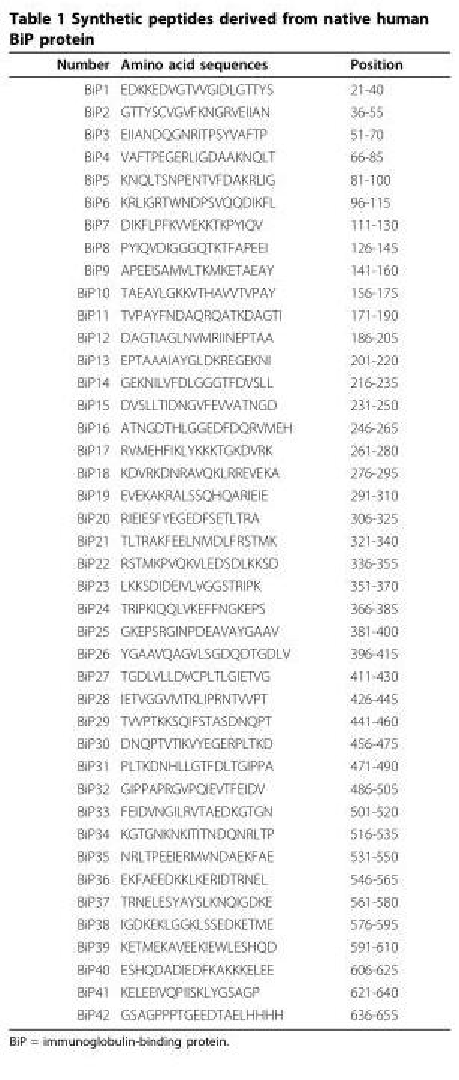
<table><thead><tr><td>Number</td><td>Amino acid sequences</td><td>Position</td></tr></thead><tbody><tr><td>BiP1</td><td>EDKKEDVGTVVGIDLGTTYS</td><td>21-40</td></tr><tr><td>BiP2</td><td>GTTYSCVGVFKNGRVEIIAN</td><td>36-55</td></tr><tr><td>BiP3</td><td>EIIANDQGNRITPSYVAFTP</td><td>51-70</td></tr><tr><td>BiP4</td><td>VAFTPEGERLIGDAAKNQLT</td><td>66-85</td></tr><tr><td>BiP5</td><td>KNQLTSNPENTVFDAKRLIG</td><td>81-100</td></tr><tr><td>BiP6</td><td>KRLIGRTWNDPSVQQDIKFL</td><td>96-115</td></tr><tr><td>BiP7</td><td>DIKFLPFKVVEKKTKPYIQV</td><td>111-130</td></tr><tr><td>BiP8</td><td>PYIQVDIGGGQTKTFAPEEI</td><td>126-145</td></tr><tr><td>BiP9</td><td>APEEISAMVLTKMKETAEAY</td><td>141-160</td></tr><tr><td>BiP10</td><td>TAEAYLGKKVTHAVVTVPAY</td><td>156-175</td></tr><tr><td>BiP11</td><td>TVPAYFNDAQRQATKDAGTI</td><td>171-190</td></tr><tr><td>BiP12</td><td>DAGTIAGLNVMRIINEPTAA</td><td>186-205</td></tr><tr><td>BiP13</td><td>EPTAAAIAYGLDKREGEKNI</td><td>201-220</td></tr><tr><td>BiP14</td><td>GEKNILVFDLGGGTFDVSLL</td><td>216-235</td></tr><tr><td>BiP15</td><td>DVSLLTIDNGVFEVVATNGD</td><td>231-250</td></tr><tr><td>BiP16</td><td>ATNGDTHLGGEDFDQRVMEH</td><td>246-265</td></tr><tr><td>BiP17</td><td>RVMEHFIKLYKKKTGKDVRK</td><td>261-280</td></tr><tr><td>BiP18</td><td>KDVRKDNRAVQKLRREVEKA</td><td>276-295</td></tr><tr><td>BiP19</td><td>EVEKAKRALSSQHQARIEIE</td><td>291-310</td></tr><tr><td>BiP20</td><td>RIEIESFYEGEDFSETLTRA</td><td>306-325</td></tr><tr><td>BiP21</td><td>TLTRAKFEELNMDLFRSTMK</td><td>321-340</td></tr><tr><td>BiP22</td><td>RSTMKPVQKVLEDSDLKKSD</td><td>336-355</td></tr><tr><td>BiP23</td><td>LKKSDIDEIVLVGGSTRIPK</td><td>351-370</td></tr><tr><td>BiP24</td><td>TRIPKIQQLVKEFFNGKEPS</td><td>366-385</td></tr><tr><td>BiP25</td><td>GKEPSRGINPDEAVAYGAAV</td><td>381-400</td></tr><tr><td>BiP26</td><td>YGAAVQAGVLSGDQDTGDLV</td><td>396-415</td></tr><tr><td>BiP27</td><td>TGDLVLLDVCPLTLGIETVG</td><td>411-430</td></tr><tr><td>BiP28</td><td>IETVGGVMTKLIPRNTVVPT</td><td>426-445</td></tr><tr><td>BiP29</td><td>TVVPTKKSQIFSTASDNQPT</td><td>441-460</td></tr><tr><td>BiP30</td><td>DNQPTVTIKVYEGERPLTKD</td><td>456-475</td></tr><tr><td>BiP31</td><td>PLTKDNHLLGTFDLTGIPPA</td><td>471-490</td></tr><tr><td>BiP32</td><td>GIPPAPRGVPQIEVTFEIDV</td><td>486-505</td></tr><tr><td>BiP33</td><td>FEIDVNGILRVTAEDKGTGN</td><td>501-520</td></tr><tr><td>BiP34</td><td>KGTGNKNKITITNDQNRLTP</td><td>516-535</td></tr><tr><td>BiP35</td><td>NRLTPEEIERMVNDAEKFAE</td><td>531-550</td></tr><tr><td>BiP36</td><td>EKFAEEDKKLKERIDTRNEL</td><td>546-565</td></tr><tr><td>BiP37</td><td>TRNELESYAYSLKNQIGDKE</td><td>561-580</td></tr><tr><td>BiP38</td><td>IGDKEKLGGKLSSEDKETME</td><td>576-595</td></tr><tr><td>BiP39</td><td>KETMEKAVEEKIEWLESHQD</td><td>591-610</td></tr><tr><td>BiP40</td><td>ESHQDADIEDFKAKKKELEE</td><td>606-625</td></tr><tr><td>BiP41</td><td>KELEEIVQPIISKLYGSAGP</td><td>621-640</td></tr><tr><td>BiP42</td><td>GSAGPPPTGEEDTAELHHHH</td><td>636-655</td></tr></tbody></table>